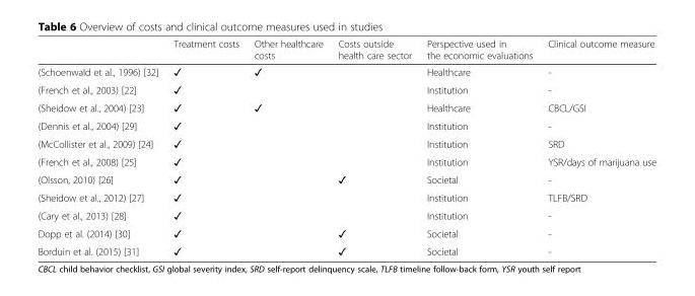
<table><thead><tr><td></td><td>Treatment costs</td><td>Other healthcare costs</td><td>Costs outside health care sector</td><td>Perspective used in the economic evaluations</td><td>Clinical outcome measure</td></tr></thead><tbody><tr><td>(Schoenwald et al., 1996) [32]</td><td>✓</td><td>✓</td><td></td><td>Healthcare</td><td>-</td></tr><tr><td>(French et al., 2003) [22]</td><td>✓</td><td></td><td></td><td>Institution</td><td>-</td></tr><tr><td>(Sheidow et al., 2004) [23]</td><td>✓</td><td>✓</td><td></td><td>Healthcare</td><td>CBCL/GSI</td></tr><tr><td>(Dennis et al., 2004) [29]</td><td>✓</td><td></td><td></td><td>Institution</td><td>-</td></tr><tr><td>(McCollister et al., 2009) [24]</td><td>✓</td><td></td><td></td><td>Institution</td><td>SRD</td></tr><tr><td>(French et al., 2008) [25]</td><td>✓</td><td></td><td></td><td>Institution</td><td>YSR/days of marijuana use</td></tr><tr><td>(Olsson, 2010) [26]</td><td>✓</td><td></td><td>✓</td><td>Societal</td><td>-</td></tr><tr><td>(Sheidow et al., 2012) [27]</td><td>✓</td><td></td><td></td><td>Institution</td><td>TLFB/SRD</td></tr><tr><td>(Cary et al., 2013) [28]</td><td>✓</td><td></td><td></td><td>Institution</td><td>-</td></tr><tr><td>Dopp et al. (2014) [30]</td><td>✓</td><td></td><td>✓</td><td>Societal</td><td>-</td></tr><tr><td>Borduin et al. (2015) [31]</td><td>✓</td><td></td><td>✓</td><td>Societal</td><td>-</td></tr></tbody></table>